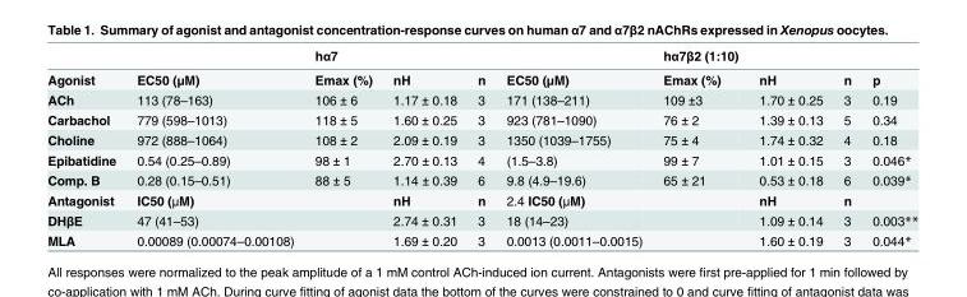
<table><thead><tr><td></td><td></td><td>hα7</td><td></td><td></td><td></td><td>hα7β2 (1:10)</td><td></td><td></td><td></td></tr></thead><tbody><tr><td>Agonist</td><td>EC50 (μM)</td><td>Emax (%)</td><td>nH</td><td>n</td><td>EC50 (μM)</td><td>Emax (%)</td><td>nH</td><td>n</td><td>p</td></tr><tr><td>ACh</td><td>113 (78–163)</td><td>106 ± 6</td><td>1.17 ± 0.18</td><td>3</td><td>171 (138–211)</td><td>109 ±3</td><td>1.70 ± 0.25</td><td>3</td><td>0.19</td></tr><tr><td>Carbachol</td><td>779 (598–1013)</td><td>118 ± 5</td><td>1.60 ± 0.25</td><td>3</td><td>923 (781–1090)</td><td>76 ± 2</td><td>1.39 ± 0.13</td><td>5</td><td>0.34</td></tr><tr><td>Choline</td><td>972 (888–1064)</td><td>108 ± 2</td><td>2.09 ± 0.19</td><td>3</td><td>1350 (1039–1755)</td><td>75 ± 4</td><td>1.74 ± 0.32</td><td>4</td><td>0.18</td></tr><tr><td>Epibatidine</td><td>0.54 (0.25–0.89)</td><td>98 ± 1</td><td>2.70 ± 0.13</td><td>4</td><td>(1.5–3.8)</td><td>99 ± 7</td><td>1.01 ± 0.15</td><td>3</td><td>0.046*</td></tr><tr><td>Comp. B</td><td>0.28 (0.15–0.51)</td><td>88 ± 5</td><td>1.14 ± 0.39</td><td>6</td><td>9.8 (4.9–19.6)</td><td>65 ± 21</td><td>0.53 ± 0.18</td><td>6</td><td>0.039*</td></tr><tr><td>Antagonist</td><td>IC50 (μM)</td><td></td><td>nH</td><td>n</td><td>2.4 IC50 (μM)</td><td></td><td>nH</td><td>n</td><td></td></tr><tr><td>DHβE</td><td>47 (41–53)</td><td></td><td>2.74 ± 0.31</td><td>3</td><td>18 (14–23)</td><td></td><td>1.09 ± 0.14</td><td>3</td><td>0.003**</td></tr><tr><td>MLA</td><td>0.00089 (0.00074–0.00108)</td><td></td><td>1.69 ± 0.20</td><td>3</td><td>0.0013 (0.0011–0.0015)</td><td></td><td>1.60 ± 0.19</td><td>3</td><td>0.044*</td></tr></tbody></table>